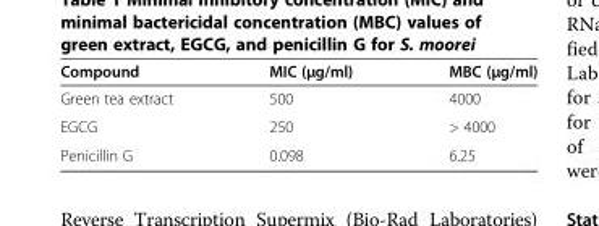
<table><thead><tr><td>Compound</td><td>MIC (μg/ml)</td><td>MBC (μg/ml)</td></tr></thead><tbody><tr><td>Green tea extract</td><td>500</td><td>4000</td></tr><tr><td>EGCG</td><td>250</td><td>&gt; 4000</td></tr><tr><td>Penicillin G</td><td>0.098</td><td>6.25</td></tr></tbody></table>